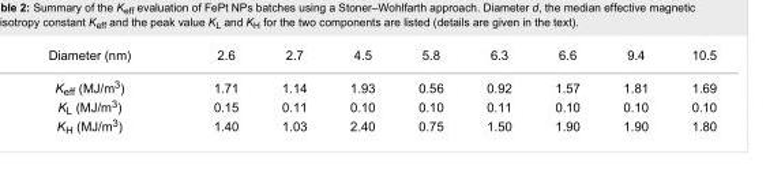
<table><tbody><tr><td>Diameter (nm)</td><td>2.6</td><td>2.7</td><td>4.5</td><td>5.8</td><td>6.3</td><td>6.6</td><td>9.4</td><td>10.5</td></tr><tr><td>K<sub>eff</sub> (MJ/m<sup>3</sup>)</td><td>1.71</td><td>1.14</td><td>1.93</td><td>0.56</td><td>0.92</td><td>1.57</td><td>1.81</td><td>1.69</td></tr><tr><td>K<sub>L</sub> (MJ/m<sup>3</sup>)</td><td>0.15</td><td>0.11</td><td>0.10</td><td>0.10</td><td>0.11</td><td>0.10</td><td>0.10</td><td>0.10</td></tr><tr><td>K<sub>H</sub> (MJ/m<sup>3</sup>)</td><td>1.40</td><td>1.03</td><td>2.40</td><td>0.75</td><td>1.50</td><td>1.90</td><td>1.90</td><td>1.80</td></tr></tbody></table>